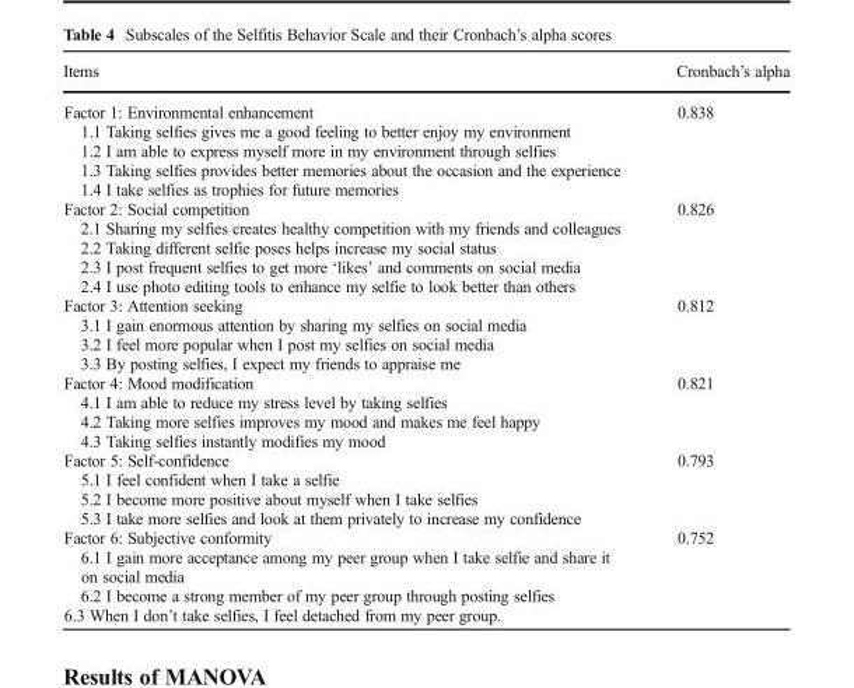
<table><thead><tr><td>Items</td><td>Cronbach’s alpha</td></tr></thead><tbody><tr><td>Factor 1: Environmental enhancement 1.1 Taking selfies gives me a good feeling to better enjoy my environment 1.2 I am able to express myself more in my environment through selfies 1.3 Taking selfies provides better memories about the occasion and the experience 1.4 I take selfies as trophies for future memories</td><td>0.838</td></tr><tr><td>Factor 2: Social competition 2.1 Sharing my selfies creates healthy competition with my friends and colleagues 2.2 Taking different selfie poses helps increase my social status 2.3 I post frequent selfies to get more ‘likes’ and comments on social media 2.4 I use photo editing tools to enhance my selfie to look better than others</td><td>0.826</td></tr><tr><td>Factor 3: Attention seeking 3.1 I gain enormous attention by sharing my selfies on social media 3.2 I feel more popular when I post my selfies on social media 3.3 By posting selfies, I expect my friends to appraise me</td><td>0.812</td></tr><tr><td>Factor 4: Mood modification 4.1 I am able to reduce my stress level by taking selfies 4.2 Taking more selfies improves my mood and makes me feel happy 4.3 Taking selfies instantly modifies my mood</td><td>0.821</td></tr><tr><td>Factor 5: Self-confidence 5.1 I feel confident when I take a selfie 5.2 I become more positive about myself when I take selfies 5.3 I take more selfies and look at them privately to increase my confidence</td><td>0.793</td></tr><tr><td>Factor 6: Subjective conformity 6.1 I gain more acceptance among my peer group when I take selfie and share it on social media 6.2 I become a strong member of my peer group through posting selfies 6.3 When I don’t take selfies, I feel detached from my peer group.</td><td>0.752</td></tr></tbody></table>